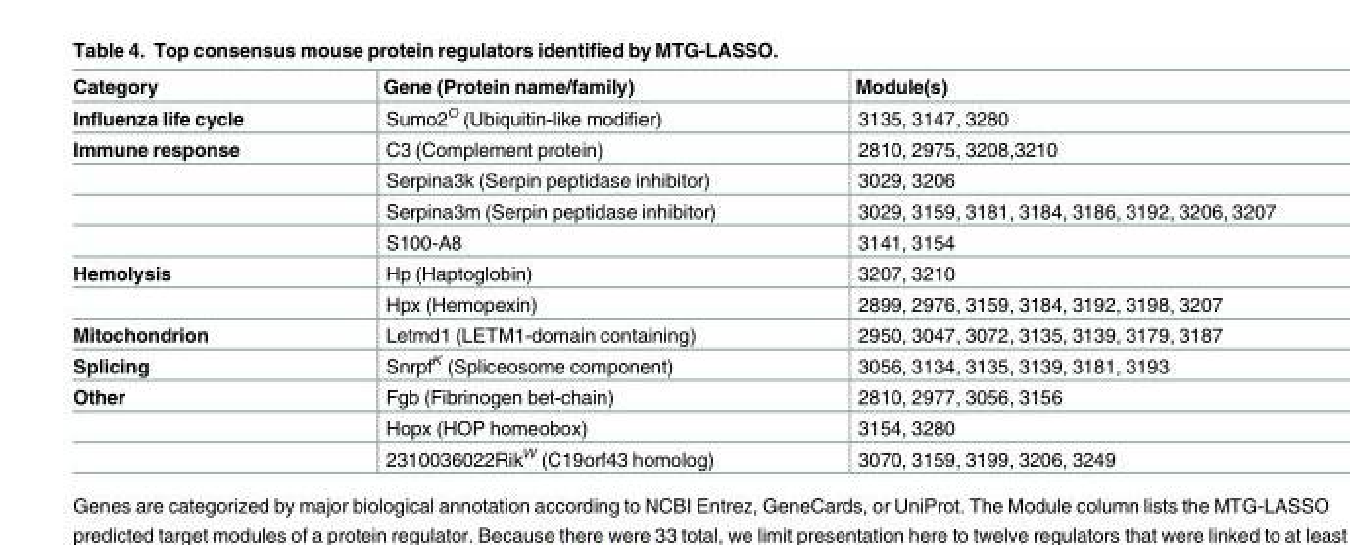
<table><thead><tr><td>Category</td><td>Gene (Protein name/family)</td><td>Module(s)</td></tr></thead><tbody><tr><td>Influenza life cycle</td><td>Sumo2<sup>O</sup> (Ubiquitin-like modifier)</td><td>3135, 3147, 3280</td></tr><tr><td rowspan="4">Immune response</td><td>C3 (Complement protein)</td><td>2810, 2975, 3208,3210</td></tr><tr><td>Serpina3k (Serpin peptidase inhibitor)</td><td>3029, 3206</td></tr><tr><td>Serpina3m (Serpin peptidase inhibitor)</td><td>3029, 3159, 3181, 3184, 3186, 3192, 3206, 3207</td></tr><tr><td>S100-A8</td><td>3141, 3154</td></tr><tr><td rowspan="2">Hemolysis</td><td>Hp (Haptoglobin)</td><td>3207, 3210</td></tr><tr><td>Hpx (Hemopexin)</td><td>2899, 2976, 3159, 3184, 3192, 3198, 3207</td></tr><tr><td>Mitochondrion</td><td>Letmd1 (LETM1-domain containing)</td><td>2950, 3047, 3072, 3135, 3139, 3179, 3187</td></tr><tr><td>Splicing</td><td>Snrpf<sup>K</sup> (Spliceosome component)</td><td>3056, 3134, 3135, 3139, 3181, 3193</td></tr><tr><td rowspan="3">Other</td><td>Fgb (Fibrinogen bet-chain)</td><td>2810, 2977, 3056, 3156</td></tr><tr><td>Hopx (HOP homeobox)</td><td>3154, 3280</td></tr><tr><td>2310036022Rik<sup>W</sup> (C19orf43 homolog)</td><td>3070, 3159, 3199, 3206, 3249</td></tr></tbody></table>